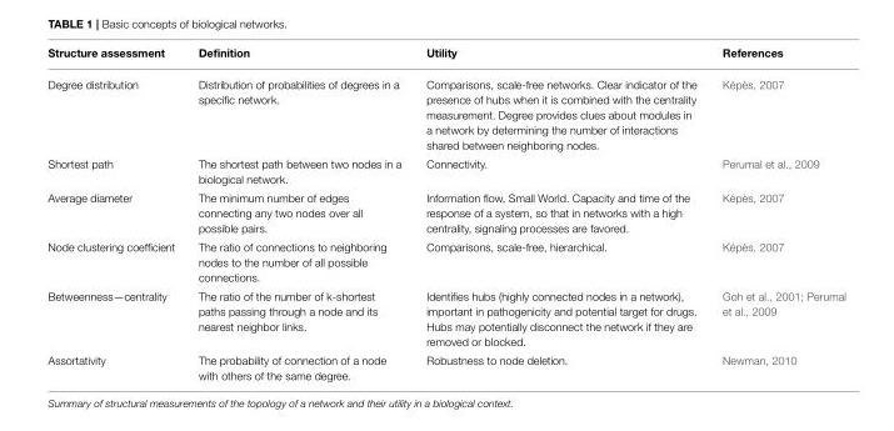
<table><thead><tr><td>Structure assessment</td><td>Definition</td><td>Utility</td><td>References</td></tr></thead><tbody><tr><td>Degree distribution</td><td>Distribution of probabilities of degrees in a specific network.</td><td>Comparisons, scale-free networks. Clear indicator of the presence of hubs when it is combined with the centrality measurement. Degree provides clues about modules in a network by determining the number of interactions shared between neighboring nodes.</td><td>Képès, 2007</td></tr><tr><td>Shortest path</td><td>The shortest path between two nodes in a biological network.</td><td>Connectivity.</td><td>Perumal et al., 2009</td></tr><tr><td>Average diameter</td><td>The minimum number of edges connecting any two nodes over all possible pairs.</td><td>Information flow, Small World. Capacity and time of the response of a system, so that in networks with a high centrality, signaling processes are favored.</td><td>Képès, 2007</td></tr><tr><td>Node clustering coefficient</td><td>The ratio of connections to neighboring nodes to the number of all possible connections.</td><td>Comparisons, scale-free, hierarchical.</td><td>Képès, 2007</td></tr><tr><td>Betweenness—centrality</td><td>The ratio of the number of k-shortest paths passing through a node and its nearest neighbor links.</td><td>Identifies hubs (highly connected nodes in a network), important in pathogenicity and potential target for drugs. Hubs may potentially disconnect the network if they are removed or blocked.</td><td>Goh et al., 2001; Perumal et al., 2009</td></tr><tr><td>Assortativity</td><td>The probability of connection of a node with others of the same degree.</td><td>Robustness to node deletion.</td><td>Newman, 2010</td></tr></tbody></table>